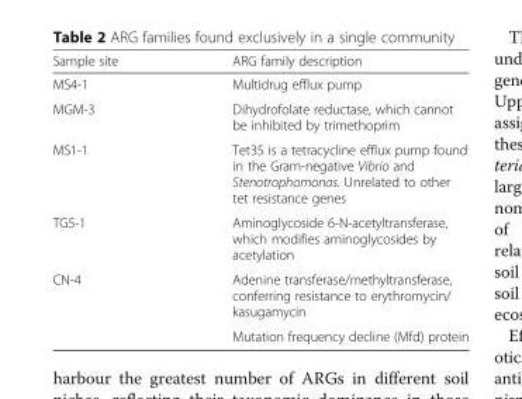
<table><thead><tr><td>Sample site</td><td>ARG family description</td></tr></thead><tbody><tr><td>MS4-1</td><td>Multidrug efflux pump</td></tr><tr><td>MGM-3</td><td>Dihydrofolate reductase, which cannot be inhibited by trimethoprim</td></tr><tr><td>MS1-1</td><td>Tet35 is a tetracycline efflux pump found in the Gram-negative Vibrio and Stenotrophomonas. Unrelated to other tet resistance genes</td></tr><tr><td>TG5-1</td><td>Aminoglycoside 6-N-acetyltransferase, which modifies aminoglycosides by acetylation</td></tr><tr><td rowspan="2">CN-4</td><td>Adenine transferase/methyltransferase, conferring resistance to erythromycin/ kasugamycin</td></tr><tr><td>Mutation frequency decline (Mfd) protein</td></tr></tbody></table>